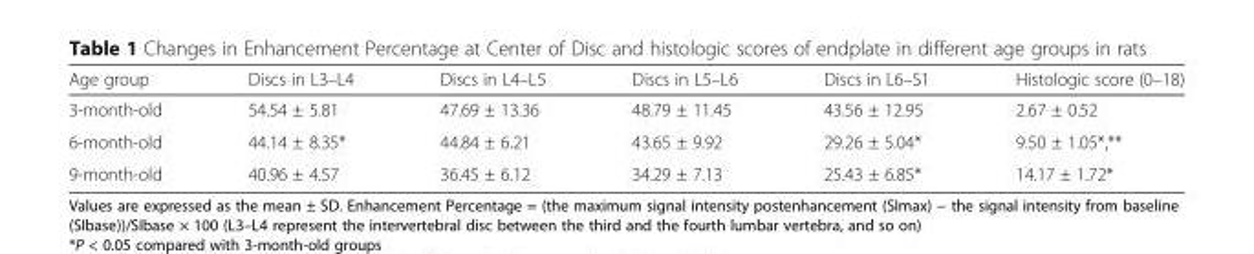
<table><thead><tr><td>Age group</td><td>Discs in L3–L4</td><td>Discs in L4–L5</td><td>Discs in L5–L6</td><td>Discs in L6–S1</td><td>Histologic score (0–18)</td></tr></thead><tbody><tr><td>3-month-old</td><td>54.54 ± 5.81</td><td>47.69 ± 13.36</td><td>48.79 ± 11.45</td><td>43.56 ± 12.95</td><td>2.67 ± 0.52</td></tr><tr><td>6-month-old</td><td>44.14 ± 8.35*</td><td>44.84 ± 6.21</td><td>43.65 ± 9.92</td><td>29.26 ± 5.04*</td><td>9.50 ± 1.05*,**</td></tr><tr><td>9-month-old</td><td>40.96 ± 4.57</td><td>36.45 ± 6.12</td><td>34.29 ± 7.13</td><td>25.43 ± 6.85*</td><td>14.17 ± 1.72*</td></tr></tbody></table>